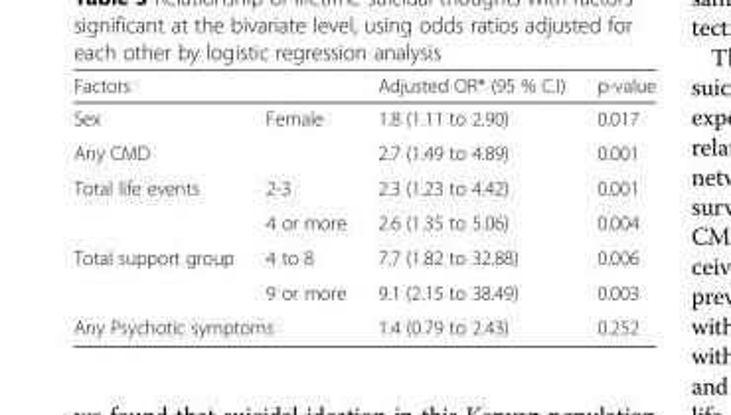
<table><thead><tr><td colspan="2">Factors</td><td rowspan="2">Adjusted OR* (95 % C.I) 1.8 (1.11 to 2.90)</td><td rowspan="2">p-value 0.017</td></tr><tr><td>Sex</td><td>Female</td></tr></thead><tbody><tr><td colspan="2">Any CMD</td><td>2.7 (1.49 to 4.89)</td><td>0.001</td></tr><tr><td rowspan="2">Total life events</td><td>2-3</td><td>2.3 (1.23 to 4.42)</td><td>0.001</td></tr><tr><td>4 or more</td><td>2.6 (1.35 to 5.06)</td><td>0.004</td></tr><tr><td rowspan="2">Total support group</td><td>4 to 8</td><td>7.7 (1.82 to 32.88)</td><td>0.006</td></tr><tr><td>9 or more</td><td>9.1 (2.15 to 38.49)</td><td>0.003</td></tr><tr><td colspan="2">Any Psychotic symptoms</td><td>1.4 (0.79 to 2.43)</td><td>0.252</td></tr></tbody></table>